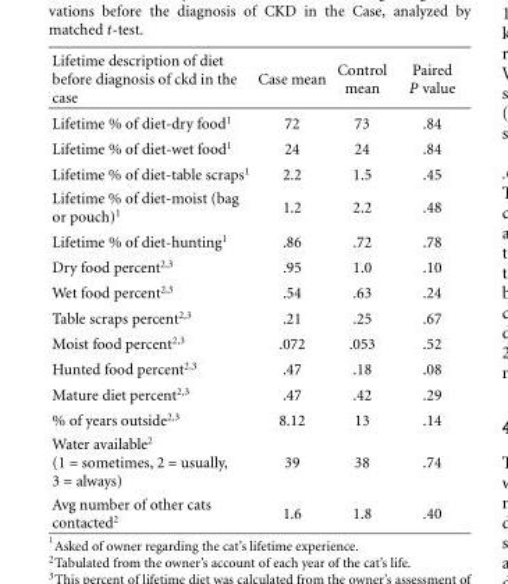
<table><thead><tr><td>Lifetime description of diet before diagnosis of ckd in the case</td><td>Case mean</td><td>Control mean</td><td>Paired P value</td></tr></thead><tbody><tr><td>Lifetime % of diet-dry food<sup>1</sup></td><td>72</td><td>73</td><td>.84</td></tr><tr><td>Lifetime % of diet-wet food<sup>1</sup></td><td>24</td><td>24</td><td>.84</td></tr><tr><td>Lifetime % of diet-table scraps<sup>1</sup></td><td>2.2</td><td>1.5</td><td>.45</td></tr><tr><td>Lifetime % of diet-moist (bag or pouch)<sup>1</sup></td><td>1.2</td><td>2.2</td><td>.48</td></tr><tr><td>Lifetime % of diet-hunting<sup>1</sup></td><td>.86</td><td>.72</td><td>.78</td></tr><tr><td>Dry food percent<sup>2,3</sup></td><td>.95</td><td>1.0</td><td>.10</td></tr><tr><td>Wet food percent<sup>2,3</sup></td><td>.54</td><td>.63</td><td>.24</td></tr><tr><td>Table scraps percent<sup>2,3</sup></td><td>.21</td><td>.25</td><td>.67</td></tr><tr><td>Moist food percent<sup>2,3</sup></td><td>.072</td><td>.053</td><td>.52</td></tr><tr><td>Hunted food percent<sup>2,3</sup></td><td>.47</td><td>.18</td><td>.08</td></tr><tr><td>Mature diet percent<sup>2,3</sup></td><td>.47</td><td>.42</td><td>.29</td></tr><tr><td>% of years outside<sup>2,3</sup></td><td>8.12</td><td>13</td><td>.14</td></tr><tr><td>Water available<sup>2</sup> (1 = sometimes, 2 = usually, 3 = always)</td><td>39</td><td>38</td><td>.74</td></tr><tr><td>Avg number of other cats contacted<sup>2</sup></td><td>1.6</td><td>1.8</td><td>.40</td></tr></tbody></table>